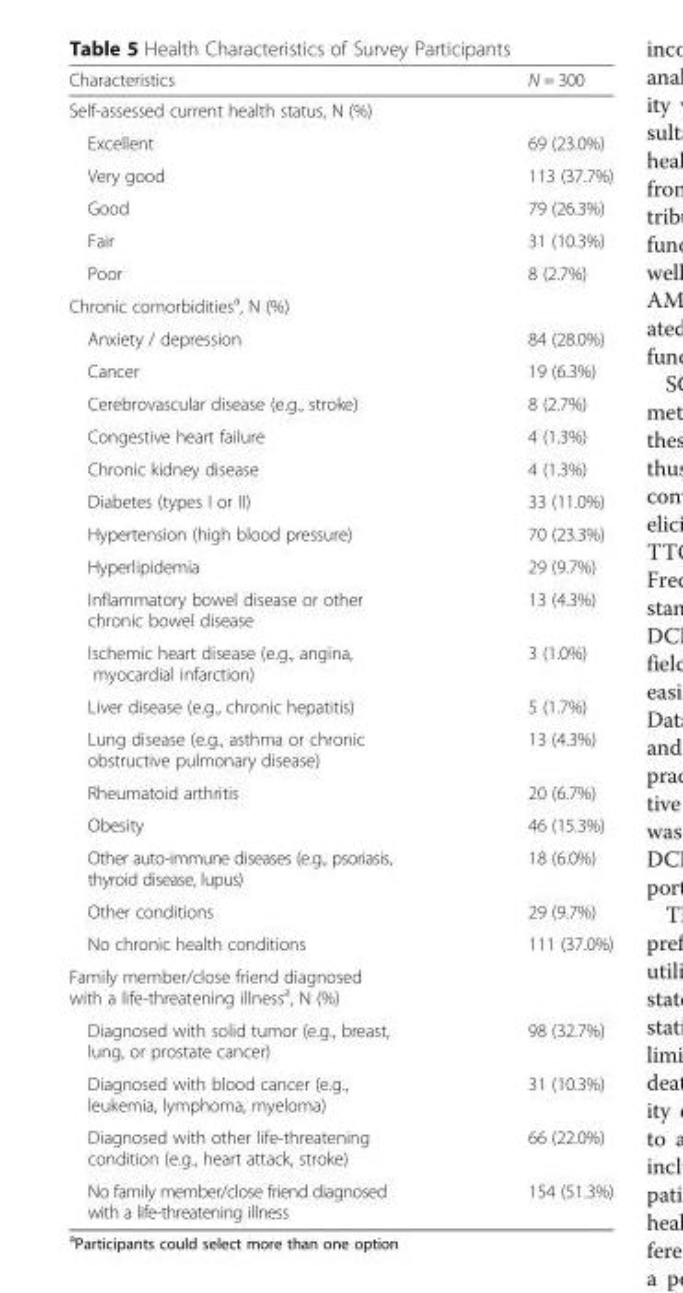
<table><thead><tr><td>Characteristics</td><td>N = 300</td></tr></thead><tbody><tr><td colspan="2">Self-assessed current health status, N (%)</td></tr><tr><td>Excellent</td><td>69 (23.0%)</td></tr><tr><td>Very good</td><td>113 (37.7%)</td></tr><tr><td>Good</td><td>79 (26.3%)</td></tr><tr><td>Fair</td><td>31 (10.3%)</td></tr><tr><td>Poor</td><td>8 (2.7%)</td></tr><tr><td colspan="2">Chronic comorbidities<sup>a</sup>, N (%)</td></tr><tr><td>Anxiety / depression</td><td>84 (28.0%)</td></tr><tr><td>Cancer</td><td>19 (6.3%)</td></tr><tr><td>Cerebrovascular disease (e.g., stroke)</td><td>8 (2.7%)</td></tr><tr><td>Congestive heart failure</td><td>4 (1.3%)</td></tr><tr><td>Chronic kidney disease</td><td>4 (1.3%)</td></tr><tr><td>Diabetes (types I or II)</td><td>33 (11.0%)</td></tr><tr><td>Hypertension (high blood pressure)</td><td>70 (23.3%)</td></tr><tr><td>Hyperlipidemia</td><td>29 (9.7%)</td></tr><tr><td>Inflammatory bowel disease or other chronic bowel disease</td><td>13 (4.3%)</td></tr><tr><td>Ischemic heart disease (e.g., angina, myocardial infarction)</td><td>3 (1.0%)</td></tr><tr><td>Liver disease (e.g., chronic hepatitis)</td><td>5 (1.7%)</td></tr><tr><td>Lung disease (e.g., asthma or chronic obstructive pulmonary disease)</td><td>13 (4.3%)</td></tr><tr><td>Rheumatoid arthritis</td><td>20 (6.7%)</td></tr><tr><td>Obesity</td><td>46 (15.3%)</td></tr><tr><td>Other auto-immune diseases (e.g., psoriasis, thyroid disease, lupus)</td><td>18 (6.0%)</td></tr><tr><td>Other conditions</td><td>29 (9.7%)</td></tr><tr><td>No chronic health conditions</td><td>111 (37.0%)</td></tr><tr><td colspan="2">Family member/close friend diagnosed with a life-threatening illness<sup>a</sup>, N (%)</td></tr><tr><td>Diagnosed with solid tumor (e.g., breast, lung, or prostate cancer)</td><td>98 (32.7%)</td></tr><tr><td>Diagnosed with blood cancer (e.g., leukemia, lymphoma, myeloma)</td><td>31 (10.3%)</td></tr><tr><td>Diagnosed with other life-threatening condition (e.g., heart attack, stroke)</td><td>66 (22.0%)</td></tr><tr><td>No family member/close friend diagnosed with a life-threatening illness</td><td>154 (51.3%)</td></tr></tbody></table>